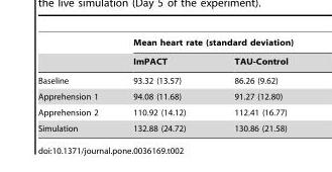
<table><thead><tr><td rowspan="2"></td><td colspan="2">Mean heart rate (standard deviation)</td></tr><tr><td>ImPACT</td><td>TAU-Control</td></tr></thead><tbody><tr><td>Baseline</td><td>93.32 (13.57)</td><td>86.26 (9.62)</td></tr><tr><td>Apprehension 1</td><td>94.08 (11.68)</td><td>91.27 (12.80)</td></tr><tr><td>Apprehension 2</td><td>110.92 (14.12)</td><td>112.41 (16.77)</td></tr><tr><td>Simulation</td><td>132.88 (24.72)</td><td>130.86 (21.58)</td></tr></tbody></table>